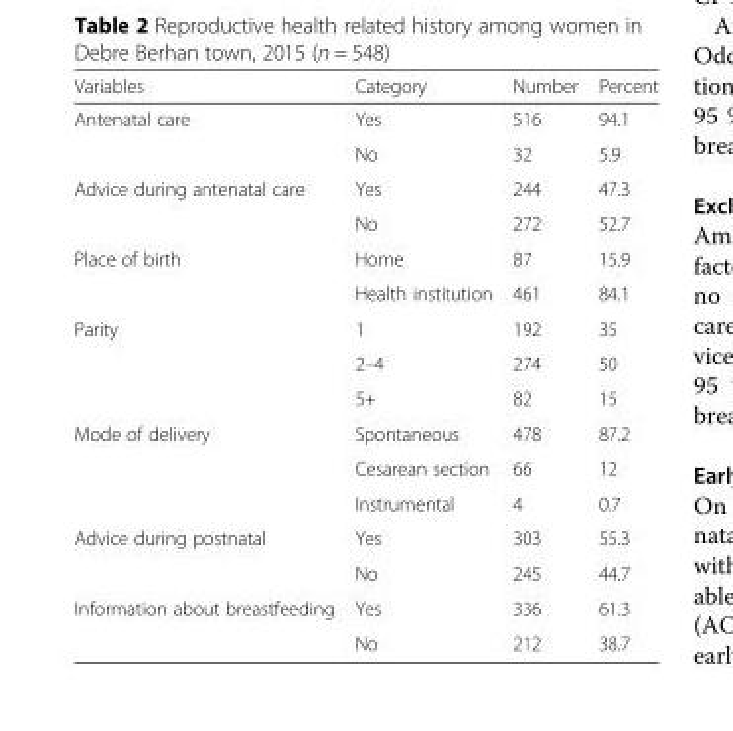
<table><thead><tr><td>Variables</td><td>Category</td><td>Number</td><td>Percent</td></tr></thead><tbody><tr><td rowspan="2">Antenatal care</td><td>Yes</td><td>516</td><td>94.1</td></tr><tr><td>No</td><td>32</td><td>5.9</td></tr><tr><td rowspan="2">Advice during antenatal care</td><td>Yes</td><td>244</td><td>47.3</td></tr><tr><td>No</td><td>272</td><td>52.7</td></tr><tr><td rowspan="2">Place of birth</td><td>Home</td><td>87</td><td>15.9</td></tr><tr><td>Health institution</td><td>461</td><td>84.1</td></tr><tr><td rowspan="3">Parity</td><td>1</td><td>192</td><td>35</td></tr><tr><td>2–4</td><td>274</td><td>50</td></tr><tr><td>5+</td><td>82</td><td>15</td></tr><tr><td rowspan="3">Mode of delivery</td><td>Spontaneous</td><td>478</td><td>87.2</td></tr><tr><td>Cesarean section</td><td>66</td><td>12</td></tr><tr><td>Instrumental</td><td>4</td><td>0.7</td></tr><tr><td rowspan="2">Advice during postnatal</td><td>Yes</td><td>303</td><td>55.3</td></tr><tr><td>No</td><td>245</td><td>44.7</td></tr><tr><td rowspan="2">Information about breastfeeding</td><td>Yes</td><td>336</td><td>61.3</td></tr><tr><td>No</td><td>212</td><td>38.7</td></tr></tbody></table>